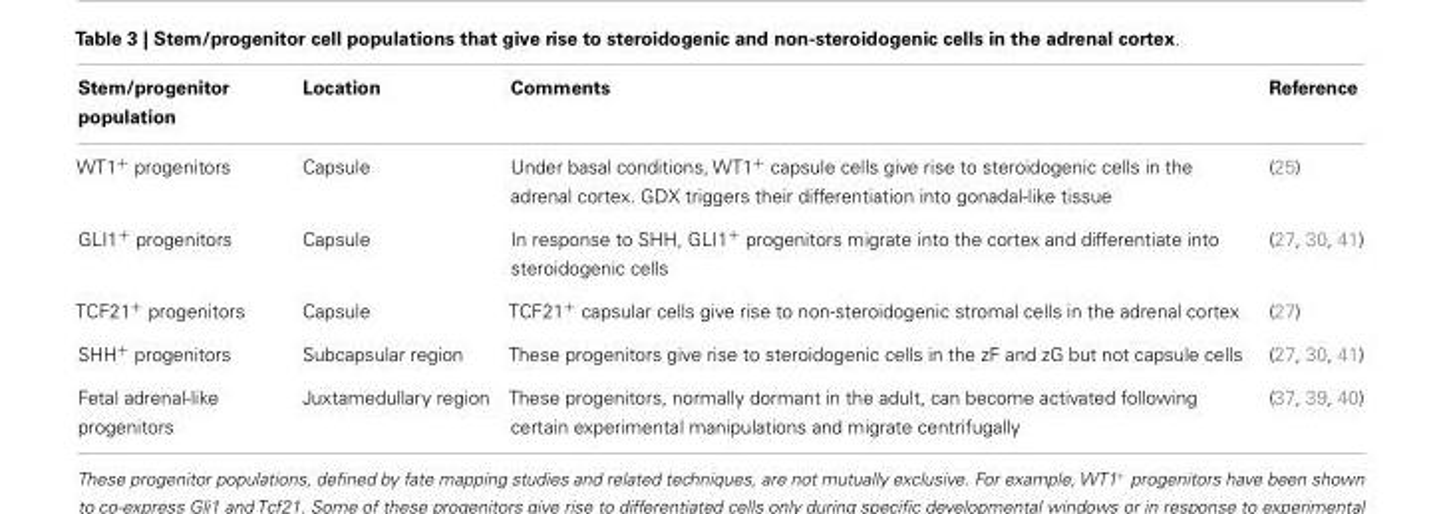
<table><thead><tr><td>Stem/progenitor population</td><td>Location</td><td>Comments</td><td>Reference</td></tr></thead><tbody><tr><td>WT1<sup>+</sup> progenitors</td><td>Capsule</td><td>Under basal conditions, WT1<sup>+</sup> capsule cells give rise to steroidogenic cells in the adrenal cortex. GDX triggers their differentiation into gonadal-like tissue</td><td>(25)</td></tr><tr><td>GLI1<sup>+</sup> progenitors</td><td>Capsule</td><td>In response to SHH, GLI1<sup>+</sup> progenitors migrate into the cortex and differentiate into steroidogenic cells</td><td>(27, 30, 41)</td></tr><tr><td>TCF21<sup>+</sup> progenitors</td><td>Capsule</td><td>TCF21<sup>+</sup> capsular cells give rise to non-steroidogenic stromal cells in the adrenal cortex</td><td>(27)</td></tr><tr><td>SHH<sup>+</sup> progenitors</td><td>Subcapsular region</td><td>These progenitors give rise to steroidogenic cells in the zF and zG but not capsule cells</td><td>(27, 30, 41)</td></tr><tr><td>Fetal adrenal-like progenitors</td><td>Juxtamedullary region</td><td>These progenitors, normally dormant in the adult, can become activated following certain experimental manipulations and migrate centrifugally</td><td>(37, 39, 40)</td></tr></tbody></table>